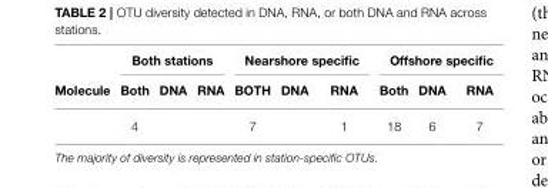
<table><thead><tr><td rowspan="2">Molecule</td><td colspan="3">Both stations</td><td colspan="3">Nearshore specific</td><td colspan="3">Offshore specific</td></tr><tr><td>Both</td><td>DNA</td><td>RNA</td><td>BOTH</td><td>DNA</td><td>RNA</td><td>Both</td><td>DNA</td><td>RNA</td></tr></thead><tbody><tr><td></td><td>4</td><td></td><td></td><td>7</td><td></td><td>1</td><td>18</td><td>6</td><td>7</td></tr></tbody></table>